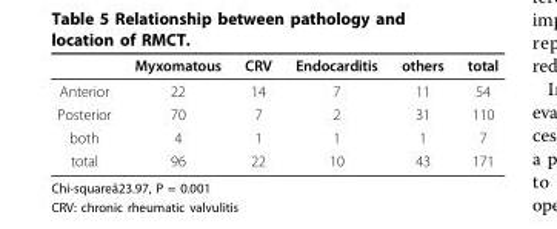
<table><thead><tr><td></td><td>Myxomatous</td><td>CRV</td><td>Endocarditis</td><td>others</td><td>total</td></tr></thead><tbody><tr><td>Anterior</td><td>22</td><td>14</td><td>7</td><td>11</td><td>54</td></tr><tr><td>Posterior</td><td>70</td><td>7</td><td>2</td><td>31</td><td>110</td></tr><tr><td>both</td><td>4</td><td>1</td><td>1</td><td>1</td><td>7</td></tr><tr><td>total</td><td>96</td><td>22</td><td>10</td><td>43</td><td>171</td></tr></tbody></table>